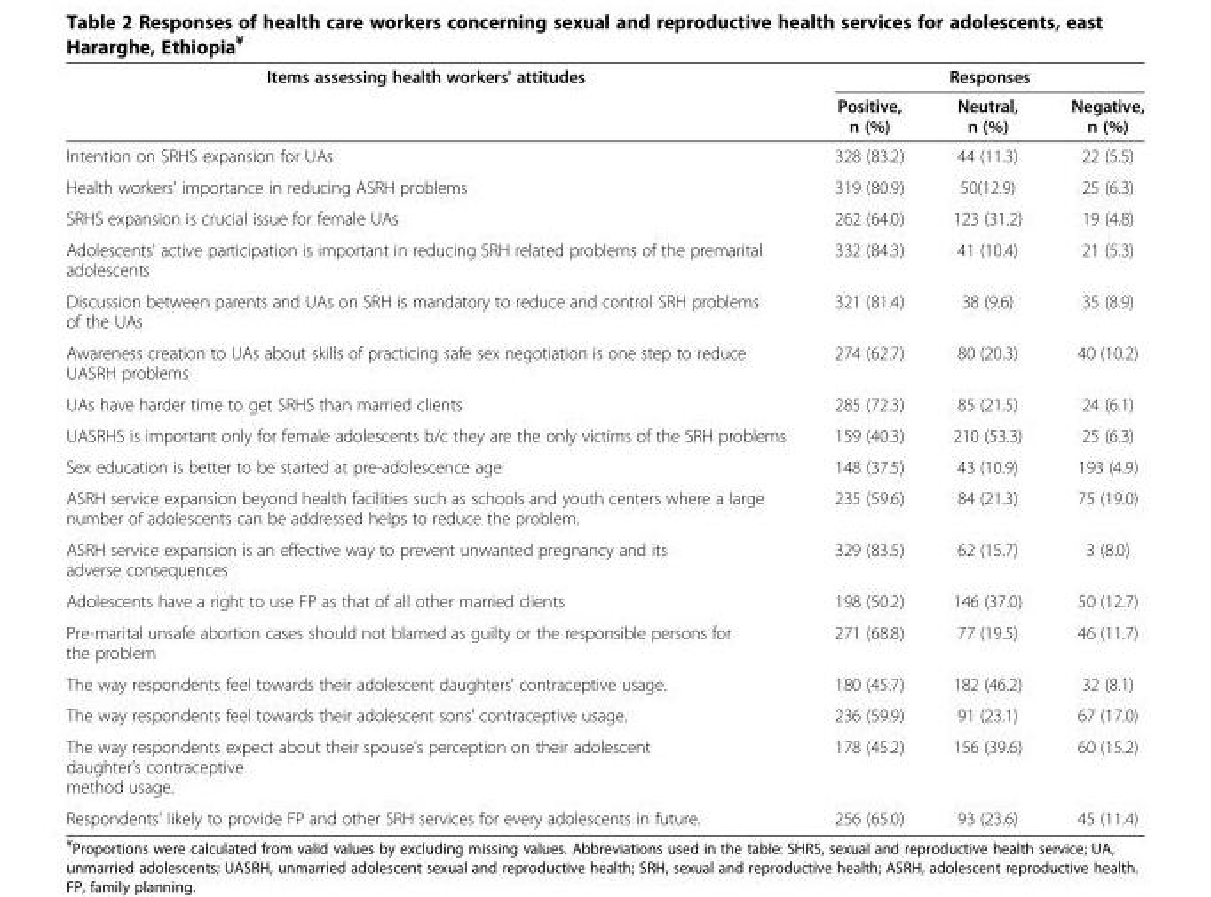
<table><thead><tr><td rowspan="2">Items assessing health workers&#x27; attitudes</td><td colspan="3">Responses</td></tr><tr><td>Positive, n (%)</td><td>Neutral, n (%)</td><td>Negative, n (%)</td></tr></thead><tbody><tr><td>Intention on SRHS expansion for UAs</td><td>328 (83.2)</td><td>44 (11.3)</td><td>22 (5.5)</td></tr><tr><td>Health workers’ importance in reducing ASRH problems</td><td>319 (80.9)</td><td>50(12.9)</td><td>25 (6.3)</td></tr><tr><td>SRHS expansion is crucial issue for female UAs</td><td>262 (64.0)</td><td>123 (31.2)</td><td>19 (4.8)</td></tr><tr><td>Adolescents’ active participation is important in reducing SRH related problems of the premarital adolescents</td><td>332 (84.3)</td><td>41 (10.4)</td><td>21 (5.3)</td></tr><tr><td>Discussion between parents and UAs on SRH is mandatory to reduce and control SRH problems of the UAs</td><td>321 (81.4)</td><td>38 (9.6)</td><td>35 (8.9)</td></tr><tr><td>Awareness creation to UAs about skills of practicing safe sex negotiation is one step to reduce UASRH problems</td><td>274 (62.7)</td><td>80 (20.3)</td><td>40 (10.2)</td></tr><tr><td>UAs have harder time to get SRHS than married clients</td><td>285 (72.3)</td><td>85 (21.5)</td><td>24 (6.1)</td></tr><tr><td>UASRHS is important only for female adolescents b/c they are the only victims of the SRH problems</td><td>159 (40.3)</td><td>210 (53.3)</td><td>25 (6.3)</td></tr><tr><td>Sex education is better to be started at pre-adolescence age</td><td>148 (37.5)</td><td>43 (10.9)</td><td>193 (4.9)</td></tr><tr><td>ASRH service expansion beyond health facilities such as schools and youth centers where a large number of adolescents can be addressed helps to reduce the problem.</td><td>235 (59.6)</td><td>84 (21.3)</td><td>75 (19.0)</td></tr><tr><td>ASRH service expansion is an effective way to prevent unwanted pregnancy and its adverse consequences</td><td>329 (83.5)</td><td>62 (15.7)</td><td>3 (8.0)</td></tr><tr><td>Adolescents have a right to use FP as that of all other married clients</td><td>198 (50.2)</td><td>146 (37.0)</td><td>50 (12.7)</td></tr><tr><td>Pre-marital unsafe abortion cases should not blamed as guilty or the responsible persons for the problem</td><td>271 (68.8)</td><td>77 (19.5)</td><td>46 (11.7)</td></tr><tr><td>The way respondents feel towards their adolescent daughters’ contraceptive usage.</td><td>180 (45.7)</td><td>182 (46.2)</td><td>32 (8.1)</td></tr><tr><td>The way respondents feel towards their adolescent sons’ contraceptive usage.</td><td>236 (59.9)</td><td>91 (23.1)</td><td>67 (17.0)</td></tr><tr><td>The way respondents expect about their spouse’s perception on their adolescent daughter’s contraceptive method usage.</td><td>178 (45.2)</td><td>156 (39.6)</td><td>60 (15.2)</td></tr><tr><td>Respondents’ likely to provide FP and other SRH services for every adolescents in future.</td><td>256 (65.0)</td><td>93 (23.6)</td><td>45 (11.4)</td></tr></tbody></table>